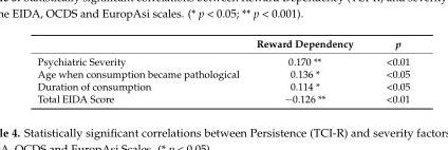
<table><thead><tr><td></td><td>Reward Dependency</td><td>p</td></tr></thead><tbody><tr><td>Psychiatric Severity</td><td>0.170 **</td><td>&lt;0.01</td></tr><tr><td>Age when consumption became pathological</td><td>0.136 *</td><td>&lt;0.05</td></tr><tr><td>Duration of consumption</td><td>0.114 *</td><td>&lt;0.05</td></tr><tr><td>Total EIDA Score</td><td>−0.126 **</td><td>&lt;0.01</td></tr></tbody></table>